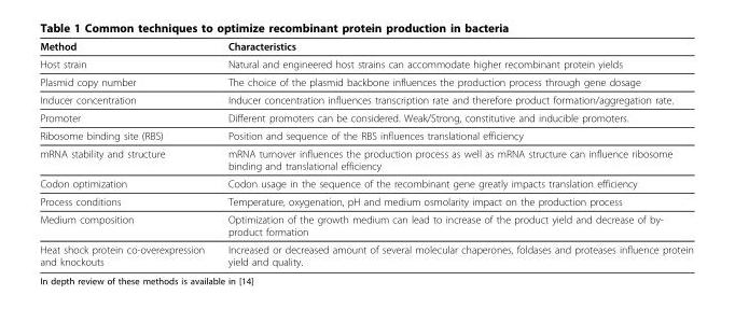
<table><thead><tr><td>Method</td><td>Characteristics</td></tr></thead><tbody><tr><td>Host strain</td><td>Natural and engineered host strains can accommodate higher recombinant protein yields</td></tr><tr><td>Plasmid copy number</td><td>The choice of the plasmid backbone influences the production process through gene dosage</td></tr><tr><td>Inducer concentration</td><td>Inducer concentration influences transcription rate and therefore product formation/aggregation rate.</td></tr><tr><td>Promoter</td><td>Different promoters can be considered. Weak/Strong, constitutive and inducible promoters.</td></tr><tr><td>Ribosome binding site (RBS)</td><td>Position and sequence of the RBS influences translational efficiency</td></tr><tr><td>mRNA stability and structure</td><td>mRNA turnover influences the production process as well as mRNA structure can influence ribosome binding and translational efficiency</td></tr><tr><td>Codon optimization</td><td>Codon usage in the sequence of the recombinant gene greatly impacts translation efficiency</td></tr><tr><td>Process conditions</td><td>Temperature, oxygenation, pH and medium osmolarity impact on the production process</td></tr><tr><td>Medium composition</td><td>Optimization of the growth medium can lead to increase of the product yield and decrease of by- product formation</td></tr><tr><td>Heat shock protein co-overexpression and knockouts</td><td>Increased or decreased amount of several molecular chaperones, foldases and proteases influence protein yield and quality.</td></tr></tbody></table>